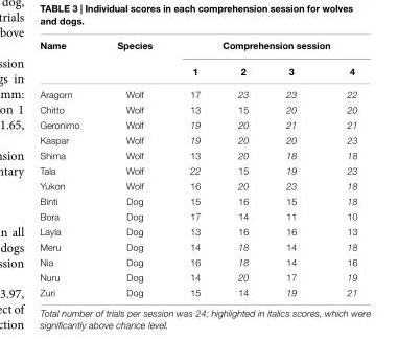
<table><thead><tr><td rowspan="2">Name</td><td rowspan="2">Species</td><td colspan="4">Comprehension session</td></tr><tr><td>1</td><td>2</td><td>3</td><td>4</td></tr></thead><tbody><tr><td>Aragorn</td><td>Wolf</td><td>17</td><td>23</td><td>23</td><td>22</td></tr><tr><td>Chitto</td><td>Wolf</td><td>13</td><td>15</td><td>20</td><td>20</td></tr><tr><td>Geronimo</td><td>Wolf</td><td>19</td><td>20</td><td>21</td><td>21</td></tr><tr><td>Kaspar</td><td>Wolf</td><td>19</td><td>20</td><td>20</td><td>23</td></tr><tr><td>Shima</td><td>Wolf</td><td>13</td><td>20</td><td>18</td><td>18</td></tr><tr><td>Tala</td><td>Wolf</td><td>22</td><td>15</td><td>19</td><td>23</td></tr><tr><td>Yukon</td><td>Wolf</td><td>16</td><td>20</td><td>23</td><td>18</td></tr><tr><td>Binti</td><td>Dog</td><td>15</td><td>16</td><td>15</td><td>18</td></tr><tr><td>Bora</td><td>Dog</td><td>17</td><td>14</td><td>11</td><td>10</td></tr><tr><td>Layla</td><td>Dog</td><td>13</td><td>16</td><td>16</td><td>13</td></tr><tr><td>Meru</td><td>Dog</td><td>14</td><td>18</td><td>14</td><td>18</td></tr><tr><td>Nia</td><td>Dog</td><td>16</td><td>18</td><td>14</td><td>16</td></tr><tr><td>Nuru</td><td>Dog</td><td>14</td><td>20</td><td>17</td><td>19</td></tr><tr><td>Zuri</td><td>Dog</td><td>15</td><td>14</td><td>19</td><td>21</td></tr></tbody></table>